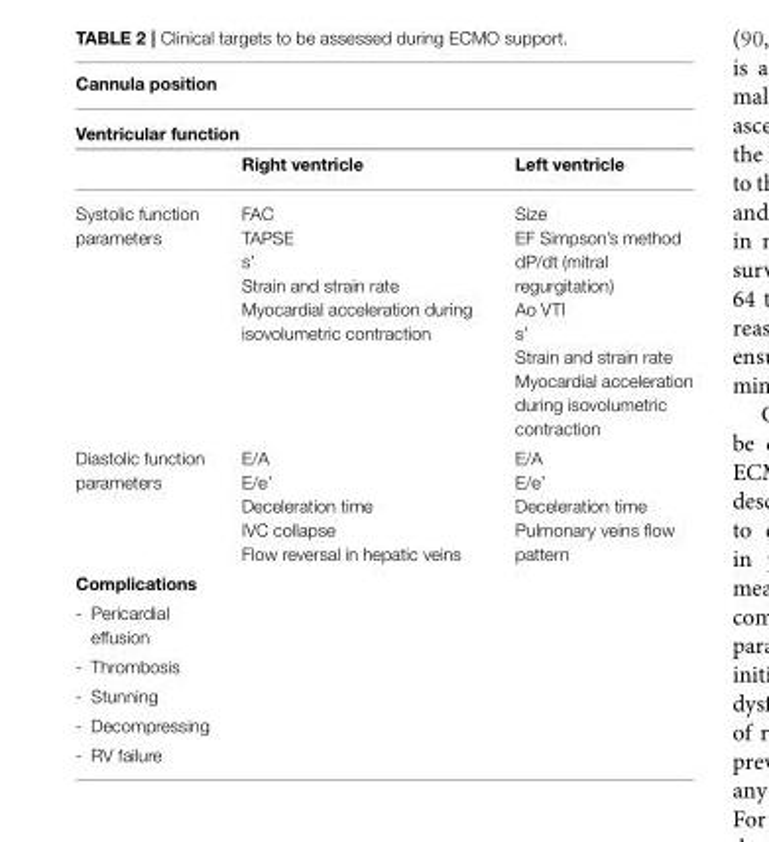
<table><thead><tr><td rowspan="2" colspan="3">Cannula position Ventricular function</td></tr><tr></tr><tr><td></td><td>Right ventricle</td><td>Left ventricle</td></tr></thead><tbody><tr><td>Systolic function parameters</td><td>FAC TAPSE s’ Strain and strain rate Myocardial acceleration during isovolumetric contraction</td><td>Size EF Simpson’s method dP/dt (mitral regurgitation) Ao VTI s’ Strain and strain rate Myocardial acceleration during isovolumetric contraction</td></tr><tr><td>Diastolic function parameters</td><td>E/A E/e’ Deceleration time IVC collapse Flow reversal in hepatic veins</td><td>E/A E/e’ Deceleration time Pulmonary veins flow pattern</td></tr><tr><td colspan="3">Complications</td></tr><tr><td colspan="3">- Pericardial effusion</td></tr><tr><td colspan="3">- Thrombosis</td></tr><tr><td colspan="3">- Stunning</td></tr><tr><td colspan="3">- Decompressing</td></tr><tr><td>- RV failure</td><td></td><td></td></tr></tbody></table>